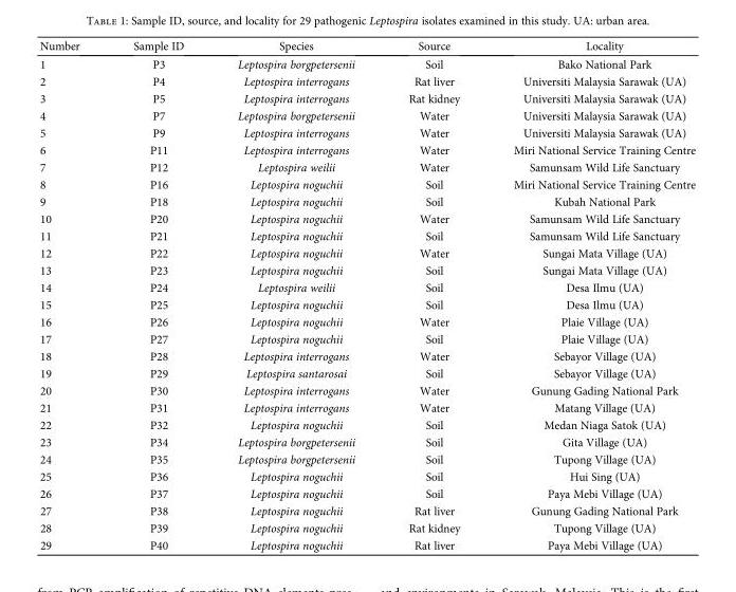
<table><thead><tr><td>Number</td><td>Sample ID</td><td>Species</td><td>Source</td><td>Locality</td></tr></thead><tbody><tr><td>1</td><td>P3</td><td>Leptospira borgpetersenii</td><td>Soil</td><td>Bako National Park</td></tr><tr><td>2</td><td>P4</td><td>Leptospira interrogans</td><td>Rat liver</td><td>Universiti Malaysia Sarawak (UA)</td></tr><tr><td>3</td><td>P5</td><td>Leptospira interrogans</td><td>Rat kidney</td><td>Universiti Malaysia Sarawak (UA)</td></tr><tr><td>4</td><td>P7</td><td>Leptospira borgpetersenii</td><td>Water</td><td>Universiti Malaysia Sarawak (UA)</td></tr><tr><td>5</td><td>P9</td><td>Leptospira interrogans</td><td>Water</td><td>Universiti Malaysia Sarawak (UA)</td></tr><tr><td>6</td><td>P11</td><td>Leptospira interrogans</td><td>Water</td><td>Miri National Service Training Centre</td></tr><tr><td>7</td><td>P12</td><td>Leptospira weilii</td><td>Water</td><td>Samunsam Wild Life Sanctuary</td></tr><tr><td>8</td><td>P16</td><td>Leptospira noguchii</td><td>Soil</td><td>Miri National Service Training Centre</td></tr><tr><td>9</td><td>P18</td><td>Leptospira noguchii</td><td>Soil</td><td>Kubah National Park</td></tr><tr><td>10</td><td>P20</td><td>Leptospira noguchii</td><td>Water</td><td>Samunsam Wild Life Sanctuary</td></tr><tr><td>11</td><td>P21</td><td>Leptospira noguchii</td><td>Soil</td><td>Samunsam Wild Life Sanctuary</td></tr><tr><td>12</td><td>P22</td><td>Leptospira noguchii</td><td>Water</td><td>Sungai Mata Village (UA)</td></tr><tr><td>13</td><td>P23</td><td>Leptospira noguchii</td><td>Soil</td><td>Sungai Mata Village (UA)</td></tr><tr><td>14</td><td>P24</td><td>Leptospira weilii</td><td>Soil</td><td>Desa Ilmu (UA)</td></tr><tr><td>15</td><td>P25</td><td>Leptospira noguchii</td><td>Soil</td><td>Desa Ilmu (UA)</td></tr><tr><td>16</td><td>P26</td><td>Leptospira noguchii</td><td>Water</td><td>Plaie Village (UA)</td></tr><tr><td>17</td><td>P27</td><td>Leptospira noguchii</td><td>Soil</td><td>Plaie Village (UA)</td></tr><tr><td>18</td><td>P28</td><td>Leptospira interrogans</td><td>Water</td><td>Sebayor Village (UA)</td></tr><tr><td>19</td><td>P29</td><td>Leptospira santarosai</td><td>Soil</td><td>Sebayor Village (UA)</td></tr><tr><td>20</td><td>P30</td><td>Leptospira interrogans</td><td>Water</td><td>Gunung Gading National Park</td></tr><tr><td>21</td><td>P31</td><td>Leptospira interrogans</td><td>Water</td><td>Matang Village (UA)</td></tr><tr><td>22</td><td>P32</td><td>Leptospira noguchii</td><td>Soil</td><td>Medan Niaga Satok (UA)</td></tr><tr><td>23</td><td>P34</td><td>Leptospira borgpetersenii</td><td>Soil</td><td>Gita Village (UA)</td></tr><tr><td>24</td><td>P35</td><td>Leptospira borgpetersenii</td><td>Soil</td><td>Tupong Village (UA)</td></tr><tr><td>25</td><td>P36</td><td>Leptospira noguchii</td><td>Soil</td><td>Hui Sing (UA)</td></tr><tr><td>26</td><td>P37</td><td>Leptospira noguchii</td><td>Soil</td><td>Paya Mebi Village (UA)</td></tr><tr><td>27</td><td>P38</td><td>Leptospira noguchii</td><td>Rat liver</td><td>Gunung Gading National Park</td></tr><tr><td>28</td><td>P39</td><td>Leptospira noguchii</td><td>Rat kidney</td><td>Tupong Village (UA)</td></tr><tr><td>29</td><td>P40</td><td>Leptospira noguchii</td><td>Rat liver</td><td>Paya Mebi Village (UA)</td></tr></tbody></table>